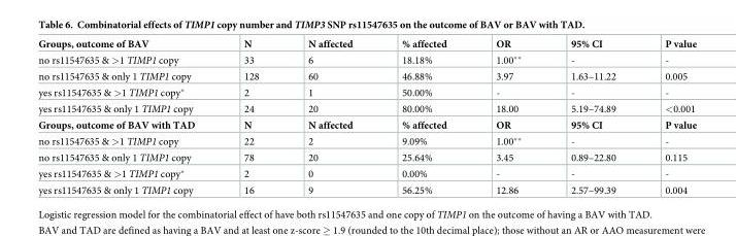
<table><tbody><tr><td>Groups, outcome of BAV</td><td>N</td><td>N affected</td><td>% affected</td><td>OR</td><td>95% CI</td><td>P value</td></tr><tr><td>no rs11547635 &amp; &gt;1 TIMP1 copy</td><td>33</td><td>6</td><td>18.18%</td><td>1.00**</td><td>-</td><td>-</td></tr><tr><td>no rs11547635 &amp; only 1 TIMP1 copy</td><td>128</td><td>60</td><td>46.88%</td><td>3.97</td><td>1.63–11.22</td><td>0.005</td></tr><tr><td>yes rs11547635 &amp; &gt;1 TIMP1 copy*</td><td>2</td><td>1</td><td>50.00%</td><td>-</td><td>-</td><td>-</td></tr><tr><td>yes rs11547635 &amp; only 1 TIMP1 copy</td><td>24</td><td>20</td><td>80.00%</td><td>18.00</td><td>5.19–74.89</td><td>&lt;0.001</td></tr><tr><td>Groups, outcome of BAV with TAD</td><td>N</td><td>N affected</td><td>% affected</td><td>OR</td><td>95% CI</td><td>P value</td></tr><tr><td>no rs11547635 &amp; &gt;1 TIMP1 copy</td><td>22</td><td>2</td><td>9.09%</td><td>1.00**</td><td>-</td><td>-</td></tr><tr><td>no rs11547635 &amp; only 1 TIMP1 copy</td><td>78</td><td>20</td><td>25.64%</td><td>3.45</td><td>0.89–22.80</td><td>0.115</td></tr><tr><td>yes rs11547635 &amp; &gt;1 TIMP1 copy*</td><td>2</td><td>0</td><td>0.00%</td><td>-</td><td>-</td><td>-</td></tr><tr><td>yes rs11547635 &amp; only 1 TIMP1 copy</td><td>16</td><td>9</td><td>56.25%</td><td>12.86</td><td>2.57–99.39</td><td>0.004</td></tr></tbody></table>